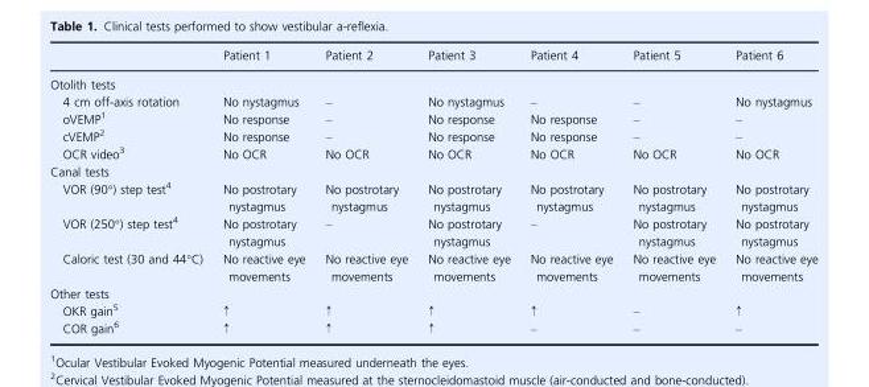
<table><thead><tr><td></td><td>Patient 1</td><td>Patient 2</td><td>Patient 3</td><td>Patient 4</td><td>Patient 5</td><td>Patient 6</td></tr></thead><tbody><tr><td colspan="7">Otolith tests</td></tr><tr><td>4 cm off-axis rotation</td><td>No nystagmus</td><td>–</td><td>No nystagmus</td><td>–</td><td>–</td><td>No nystagmus</td></tr><tr><td>oVEMP<sup>1</sup></td><td>No response</td><td>–</td><td>No response</td><td>No response</td><td>–</td><td>–</td></tr><tr><td>cVEMP<sup>2</sup></td><td>No response</td><td>–</td><td>No response</td><td>No response</td><td>–</td><td>–</td></tr><tr><td>OCR video<sup>3</sup></td><td>No OCR</td><td>No OCR</td><td>No OCR</td><td>No OCR</td><td>No OCR</td><td>No OCR</td></tr><tr><td colspan="7">Canal tests</td></tr><tr><td>VOR (90°) step test<sup>4</sup></td><td>No postrotary nystagmus</td><td>No postrotary nystagmus</td><td>No postrotary nystagmus</td><td>No postrotary nystagmus</td><td>No postrotary nystagmus</td><td>No postrotary nystagmus</td></tr><tr><td>VOR (250°) step test<sup>4</sup></td><td>No postrotary nystagmus</td><td>–</td><td>No postrotary nystagmus</td><td>–</td><td>No postrotary nystagmus</td><td>No postrotary nystagmus</td></tr><tr><td>Caloric test (30 and 44°C)</td><td>No reactive eye movements</td><td>No reactive eye movements</td><td>No reactive eye movements</td><td>No reactive eye movements</td><td>No reactive eye movements</td><td>No reactive eye movements</td></tr><tr><td colspan="7">Other tests</td></tr><tr><td>OKR gain<sup>5</sup></td><td>↑</td><td>↑</td><td>↑</td><td>↑</td><td>–</td><td>↑</td></tr><tr><td>COR gain<sup>6</sup></td><td>↑</td><td>↑</td><td>↑</td><td>–</td><td>–</td><td>–</td></tr></tbody></table>